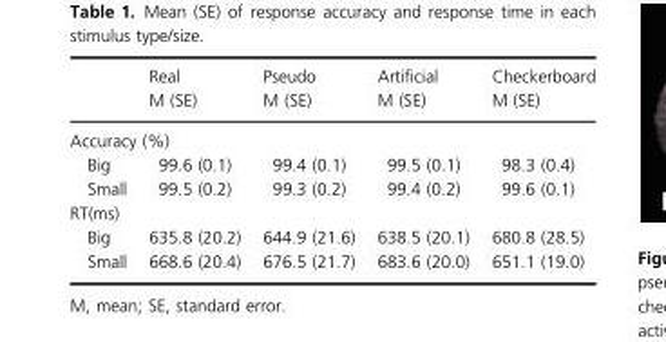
<table><thead><tr><td rowspan="2"></td><td rowspan="2">Real M (SE)</td><td rowspan="2">Pseudo M (SE)</td><td rowspan="2">Artificial M (SE)</td><td rowspan="2">Checkerboard M (SE)</td></tr><tr></tr></thead><tbody><tr><td colspan="5">Accuracy (%)</td></tr><tr><td>Big</td><td>99.6 (0.1)</td><td>99.4 (0.1)</td><td>99.5 (0.1)</td><td>98.3 (0.4)</td></tr><tr><td>Small</td><td>99.5 (0.2)</td><td>99.3 (0.2)</td><td>99.4 (0.2)</td><td>99.6 (0.1)</td></tr><tr><td colspan="5">RT(ms)</td></tr><tr><td>Big</td><td>635.8 (20.2)</td><td>644.9 (21.6)</td><td>638.5 (20.1)</td><td>680.8 (28.5)</td></tr><tr><td>Small</td><td>668.6 (20.4)</td><td>676.5 (21.7)</td><td>683.6 (20.0)</td><td>651.1 (19.0)</td></tr></tbody></table>